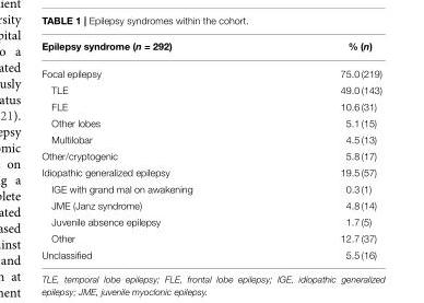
<table><thead><tr><td>Epilepsy syndrome (n = 292)</td><td>% (n)</td></tr></thead><tbody><tr><td>Focal epilepsy</td><td>75.0 (219)</td></tr><tr><td>TLE</td><td>49.0 (143)</td></tr><tr><td>FLE</td><td>10.6 (31)</td></tr><tr><td>Other lobes</td><td>5.1 (15)</td></tr><tr><td>Multilobar</td><td>4.5 (13)</td></tr><tr><td>Other/cryptogenic</td><td>5.8 (17)</td></tr><tr><td>Idiopathic generalized epilepsy</td><td>19.5 (57)</td></tr><tr><td>IGE with grand mal on awakening</td><td>0.3 (1)</td></tr><tr><td>JME (Janz syndrome)</td><td>4.8 (14)</td></tr><tr><td>Juvenile absence epilepsy</td><td>1.7 (5)</td></tr><tr><td>Other</td><td>12.7 (37)</td></tr><tr><td>Unclassified</td><td>5.5 (16)</td></tr></tbody></table>